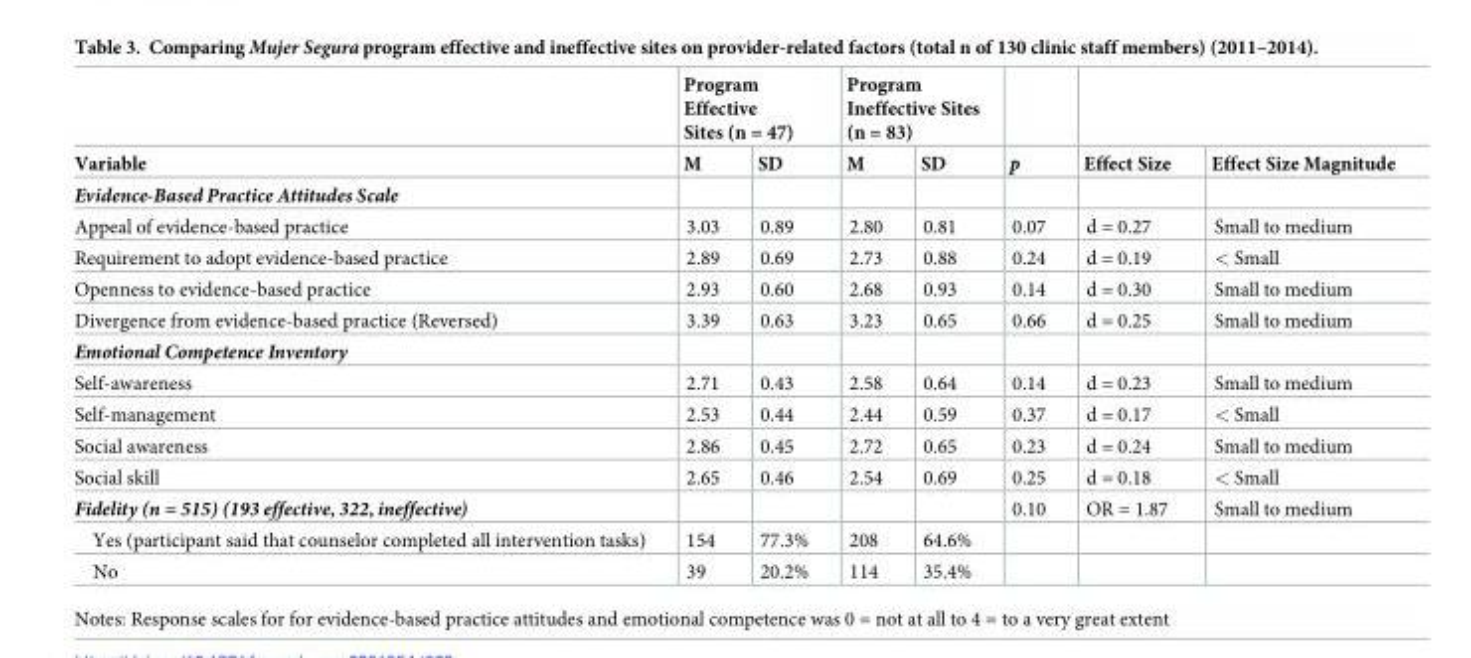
<table><thead><tr><td rowspan="2">Variable</td><td colspan="2">Program Effective Sites (n = 47)</td><td colspan="2">Program Ineffective Sites (n = 83)</td><td rowspan="2">p</td><td rowspan="2">Effect Size</td><td rowspan="2">Effect Size Magnitude</td></tr><tr><td>M</td><td>SD</td><td>M</td><td>SD</td></tr></thead><tbody><tr><td colspan="8">Evidence-Based Practice Attitudes Scale</td></tr><tr><td>Appeal of evidence-based practice</td><td>3.03</td><td>0.89</td><td>2.80</td><td>0.81</td><td>0.07</td><td>d = 0.27</td><td>Small to medium</td></tr><tr><td>Requirement to adopt evidence-based practice</td><td>2.89</td><td>0.69</td><td>2.73</td><td>0.88</td><td>0.24</td><td>d = 0.19</td><td>&lt; Small</td></tr><tr><td>Openness to evidence-based practice</td><td>2.93</td><td>0.60</td><td>2.68</td><td>0.93</td><td>0.14</td><td>d = 0.30</td><td>Small to medium</td></tr><tr><td>Divergence from evidence-based practice (Reversed)</td><td>3.39</td><td>0.63</td><td>3.23</td><td>0.65</td><td>0.66</td><td>d = 0.25</td><td>Small to medium</td></tr><tr><td colspan="8">Emotional Competence Inventory</td></tr><tr><td>Self-awareness</td><td>2.71</td><td>0.43</td><td>2.58</td><td>0.64</td><td>0.14</td><td>d = 0.23</td><td>Small to medium</td></tr><tr><td>Self-management</td><td>2.53</td><td>0.44</td><td>2.44</td><td>0.59</td><td>0.37</td><td>d = 0.17</td><td>&lt; Small</td></tr><tr><td>Social awareness</td><td>2.86</td><td>0.45</td><td>2.72</td><td>0.65</td><td>0.23</td><td>d = 0.24</td><td>Small to medium</td></tr><tr><td>Social skill</td><td>2.65</td><td>0.46</td><td>2.54</td><td>0.69</td><td>0.25</td><td>d = 0.18</td><td>&lt; Small</td></tr><tr><td>Fidelity (n = 515) (193 effective, 322, ineffective)</td><td></td><td></td><td></td><td></td><td>0.10</td><td>OR = 1.87</td><td>Small to medium</td></tr><tr><td>Yes (participant said that counselor completed all intervention tasks)</td><td>154</td><td>77.3%</td><td>208</td><td>64.6%</td><td></td><td></td><td></td></tr><tr><td>No</td><td>39</td><td>20.2%</td><td>114</td><td>35.4%</td><td></td><td></td><td></td></tr></tbody></table>